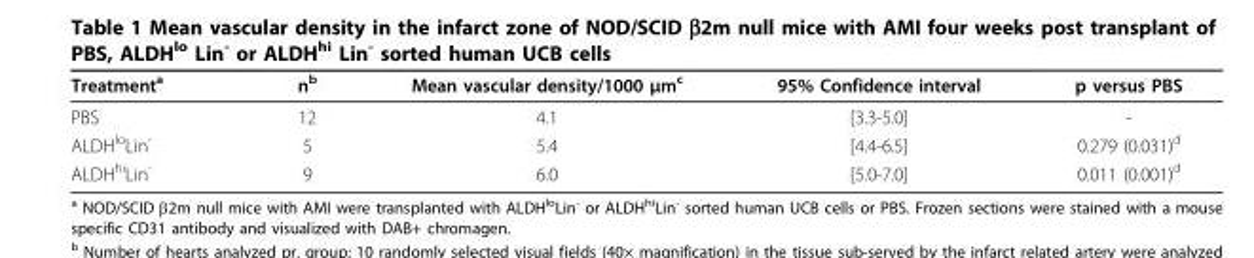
<table><thead><tr><td>Treatment<sup>a</sup></td><td>n<sup>b</sup></td><td>Mean vascular density/1000 μm<sup>c</sup></td><td>95% Confidence interval</td><td>p versus PBS</td></tr></thead><tbody><tr><td>PBS</td><td>12</td><td>4.1</td><td>[3.3-5.0]</td><td>-</td></tr><tr><td>ALDH<sup>lo</sup>Lin<sup>-</sup></td><td>5</td><td>5.4</td><td>[4.4-6.5]</td><td>0.279 (0.031)<sup>d</sup></td></tr><tr><td>ALDH<sup>hi</sup>Lin<sup>-</sup></td><td>9</td><td>6.0</td><td>[5.0-7.0]</td><td>0.011 (0.001)<sup>d</sup></td></tr></tbody></table>